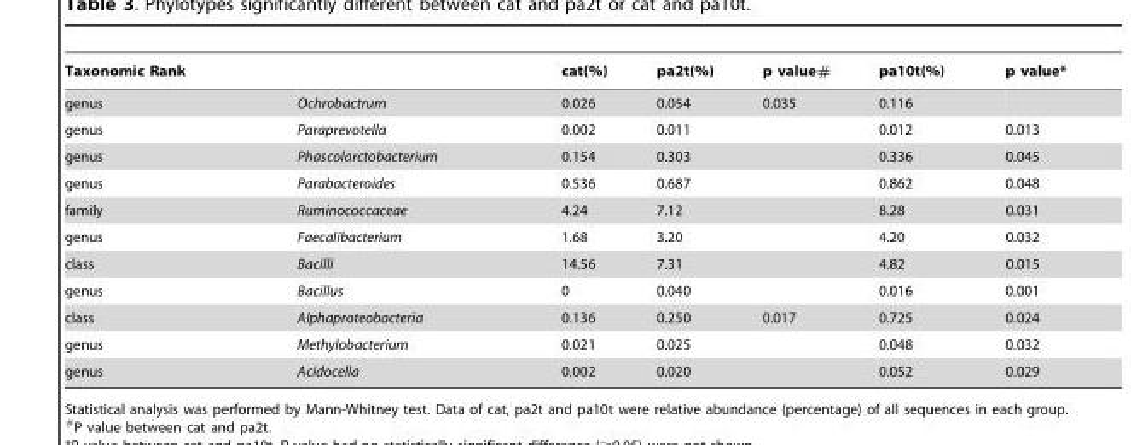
<table><thead><tr><td>Taxonomic Rank</td><td></td><td>cat(%)</td><td>pa2t(%)</td><td>p value#</td><td>pa10t(%)</td><td>p value*</td></tr></thead><tbody><tr><td>genus</td><td>Ochrobactrum</td><td>0.026</td><td>0.054</td><td>0.035</td><td>0.116</td><td></td></tr><tr><td>genus</td><td>Paraprevotella</td><td>0.002</td><td>0.011</td><td></td><td>0.012</td><td>0.013</td></tr><tr><td>genus</td><td>Phascolarctobacterium</td><td>0.154</td><td>0.303</td><td></td><td>0.336</td><td>0.045</td></tr><tr><td>genus</td><td>Parabacteroides</td><td>0.536</td><td>0.687</td><td></td><td>0.862</td><td>0.048</td></tr><tr><td>family</td><td>Ruminococcaceae</td><td>4.24</td><td>7.12</td><td></td><td>8.28</td><td>0.031</td></tr><tr><td>genus</td><td>Faecalibacterium</td><td>1.68</td><td>3.20</td><td></td><td>4.20</td><td>0.032</td></tr><tr><td>class</td><td>Bacilli</td><td>14.56</td><td>7.31</td><td></td><td>4.82</td><td>0.015</td></tr><tr><td>genus</td><td>Bacillus</td><td>0</td><td>0.040</td><td></td><td>0.016</td><td>0.001</td></tr><tr><td>class</td><td>Alphaproteobacteria</td><td>0.136</td><td>0.250</td><td>0.017</td><td>0.725</td><td>0.024</td></tr><tr><td>genus</td><td>Methylobacterium</td><td>0.021</td><td>0.025</td><td></td><td>0.048</td><td>0.032</td></tr><tr><td>genus</td><td>Acidocella</td><td>0.002</td><td>0.020</td><td></td><td>0.052</td><td>0.029</td></tr></tbody></table>